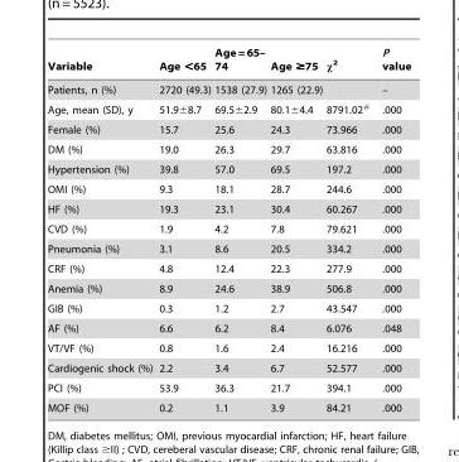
<table><thead><tr><td>Variable</td><td>Age &lt;65</td><td>Age = 65– 74</td><td>Age ≥75</td><td>x2</td><td>P value</td></tr></thead><tbody><tr><td>Patients, n (%)</td><td>2720 (49.3)</td><td>1538 (27.9)</td><td>1265 (22.9)</td><td></td><td>–</td></tr><tr><td>Age, mean (SD), y</td><td>51.9±8.7</td><td>69.5±2.9</td><td>80.1±4.4</td><td>8791.02#</td><td>.000</td></tr><tr><td>Female (%)</td><td>15.7</td><td>25.6</td><td>24.3</td><td>73.966</td><td>.000</td></tr><tr><td>DM (%)</td><td>19.0</td><td>26.3</td><td>29.7</td><td>63.816</td><td>.000</td></tr><tr><td>Hypertension (%)</td><td>39.8</td><td>57.0</td><td>69.5</td><td>197.2</td><td>.000</td></tr><tr><td>OMI (%)</td><td>9.3</td><td>18.1</td><td>28.7</td><td>244.6</td><td>.000</td></tr><tr><td>HF (%)</td><td>19.3</td><td>23.1</td><td>30.4</td><td>60.267</td><td>.000</td></tr><tr><td>CVD (%)</td><td>1.9</td><td>4.2</td><td>7.8</td><td>79.621</td><td>.000</td></tr><tr><td>Pneumonia (%)</td><td>3.1</td><td>8.6</td><td>20.5</td><td>334.2</td><td>.000</td></tr><tr><td>CRF (%)</td><td>4.8</td><td>12.4</td><td>22.3</td><td>277.9</td><td>.000</td></tr><tr><td>Anemia (%)</td><td>8.9</td><td>24.6</td><td>38.9</td><td>506.8</td><td>.000</td></tr><tr><td>GIB (%)</td><td>0.3</td><td>1.2</td><td>2.7</td><td>43.547</td><td>.000</td></tr><tr><td>AF (%)</td><td>6.6</td><td>6.2</td><td>8.4</td><td>6.076</td><td>.048</td></tr><tr><td>VT/VF (%)</td><td>0.8</td><td>1.6</td><td>2.4</td><td>16.216</td><td>.000</td></tr><tr><td>Cardiogenic shock (%)</td><td>2.2</td><td>3.4</td><td>6.7</td><td>52.577</td><td>.000</td></tr><tr><td>PCI (%)</td><td>53.9</td><td>36.3</td><td>21.7</td><td>394.1</td><td>.000</td></tr><tr><td>MOF (%)</td><td>0.2</td><td>1.1</td><td>3.9</td><td>84.21</td><td>.000</td></tr></tbody></table>